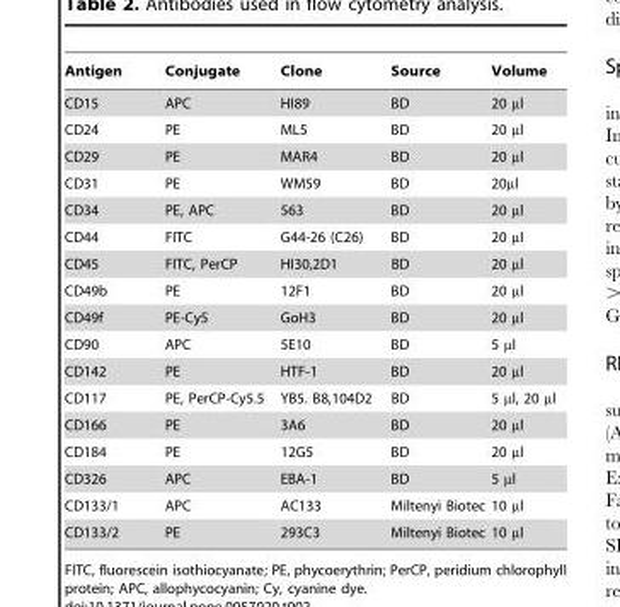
<table><thead><tr><td>Antigen</td><td>Conjugate</td><td>Clone</td><td>Source</td><td>Volume</td></tr></thead><tbody><tr><td>CD15</td><td>APC</td><td>HI89</td><td>BD</td><td>20 µl</td></tr><tr><td>CD24</td><td>PE</td><td>ML5</td><td>BD</td><td>20 µl</td></tr><tr><td>CD29</td><td>PE</td><td>MAR4</td><td>BD</td><td>20 µl</td></tr><tr><td>CD31</td><td>PE</td><td>WM59</td><td>BD</td><td>20µl</td></tr><tr><td>CD34</td><td>PE, APC</td><td>563</td><td>BD</td><td>20 µl</td></tr><tr><td>CD44</td><td>FITC</td><td>G44-26 (C26)</td><td>BD</td><td>20 µl</td></tr><tr><td>CD45</td><td>FITC, PerCP</td><td>HI30,2D1</td><td>BD</td><td>20 µl</td></tr><tr><td>CD49b</td><td>PE</td><td>12F1</td><td>BD</td><td>20 µl</td></tr><tr><td>CD49f</td><td>PE-Cy5</td><td>GoH3</td><td>BD</td><td>20 µl</td></tr><tr><td>CD90</td><td>APC</td><td>5E10</td><td>BD</td><td>5 µl</td></tr><tr><td>CD142</td><td>PE</td><td>HTF-1</td><td>BD</td><td>20 µl</td></tr><tr><td>CD117</td><td>PE, PerCP-Cy5.5</td><td>YB5. B8,104D2</td><td>BD</td><td>5 µl, 20 µl</td></tr><tr><td>CD166</td><td>PE</td><td>3A6</td><td>BD</td><td>20 µl</td></tr><tr><td>CD184</td><td>PE</td><td>12G5</td><td>BD</td><td>20 µl</td></tr><tr><td>CD326</td><td>APC</td><td>EBA-1</td><td>BD</td><td>5 µl</td></tr><tr><td>CD133/1</td><td>APC</td><td>AC133</td><td>Miltenyi Biotec</td><td>10 µl</td></tr><tr><td>CD133/2</td><td>PE</td><td>293C3</td><td>Miltenyi Biotec</td><td>10 µl</td></tr></tbody></table>